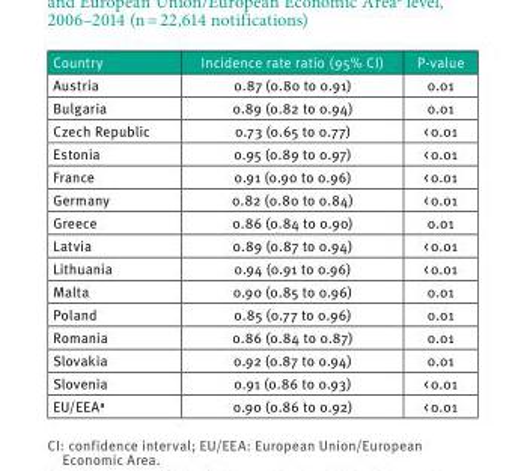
<table><thead><tr><td>Country</td><td>Incidence rate ratio (95% CI)</td><td>P-value</td></tr></thead><tbody><tr><td>Austria</td><td>0.87 (0.80 to 0.91)</td><td>0.01</td></tr><tr><td>Bulgaria</td><td>0.89 (0.82 to 0.94)</td><td>0.01</td></tr><tr><td>Czech Republic</td><td>0.73 (0.65 to 0.77)</td><td>&lt; 0.01</td></tr><tr><td>Estonia</td><td>0.95 (0.89 to 0.97)</td><td>&lt; 0.01</td></tr><tr><td>France</td><td>0.91 (0.90 to 0.96)</td><td>&lt; 0.01</td></tr><tr><td>Germany</td><td>0.82 (0.80 to 0.84)</td><td>&lt; 0.01</td></tr><tr><td>Greece</td><td>0.86 (0.84 to 0.90)</td><td>0.01</td></tr><tr><td>Latvia</td><td>0.89 (0.87 to 0.94)</td><td>&lt; 0.01</td></tr><tr><td>Lithuania</td><td>0.94 (0.91 to 0.96)</td><td>&lt; 0.01</td></tr><tr><td>Malta</td><td>0.90 (0.85 to 0.96)</td><td>0.01</td></tr><tr><td>Poland</td><td>0.85 (0.77 to 0.96)</td><td>0.01</td></tr><tr><td>Romania</td><td>0.86 (0.84 to 0.87)</td><td>0.01</td></tr><tr><td>Slovakia</td><td>0.92 (0.87 to 0.94)</td><td>0.01</td></tr><tr><td>Slovenia</td><td>0.91 (0.86 to 0.93)</td><td>&lt; 0.01</td></tr><tr><td>EU/EEA<sup>a</sup></td><td>0.90 (0.86 to 0.92)</td><td>&lt; 0.01</td></tr></tbody></table>